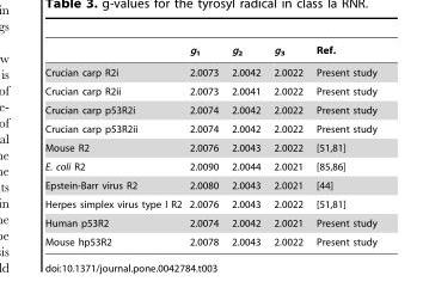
<table><thead><tr><td></td><td>g<sub>1</sub></td><td>g<sub>2</sub></td><td>g<sub>3</sub></td><td>Ref.</td></tr></thead><tbody><tr><td>Crucian carp R2i</td><td>2.0073</td><td>2.0042</td><td>2.0022</td><td>Present study</td></tr><tr><td>Crucian carp R2ii</td><td>2.0073</td><td>2.0041</td><td>2.0022</td><td>Present study</td></tr><tr><td>Crucian carp p53R2i</td><td>2.0074</td><td>2.0042</td><td>2.0022</td><td>Present study</td></tr><tr><td>Crucian carp p53R2ii</td><td>2.0074</td><td>2.0042</td><td>2.0022</td><td>Present study</td></tr><tr><td>Mouse R2</td><td>2.0076</td><td>2.0043</td><td>2.0022</td><td>[51,81]</td></tr><tr><td>E. coli R2</td><td>2.0090</td><td>2.0044</td><td>2.0021</td><td>[85,86]</td></tr><tr><td>Epstein-Barr virus R2</td><td>2.0080</td><td>2.0043</td><td>2.0021</td><td>[44]</td></tr><tr><td>Herpes simplex virus type I R2</td><td>2.0076</td><td>2.0043</td><td>2.0022</td><td>[51,81]</td></tr><tr><td>Human p53R2</td><td>2.0074</td><td>2.0042</td><td>2.0021</td><td>Present study</td></tr><tr><td>Mouse hp53R2</td><td>2.0078</td><td>2.0043</td><td>2.0022</td><td>Present study</td></tr></tbody></table>